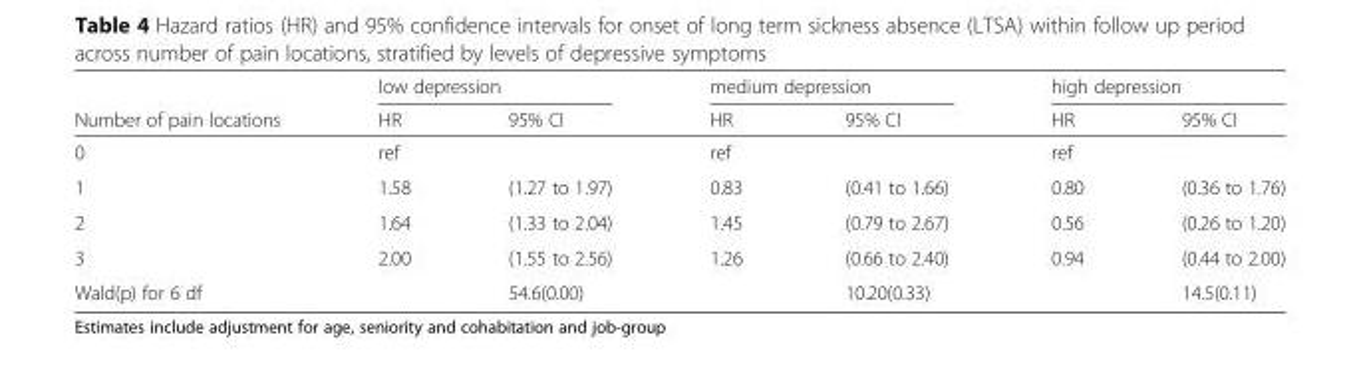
<table><thead><tr><td rowspan="2">Number of pain locations</td><td colspan="2">low depression</td><td colspan="2">medium depression</td><td colspan="2">high depression</td></tr><tr><td>HR</td><td>95% CI</td><td>HR</td><td>95% CI</td><td>HR</td><td>95% CI</td></tr></thead><tbody><tr><td>0</td><td>ref</td><td></td><td>ref</td><td></td><td>ref</td><td></td></tr><tr><td>1</td><td>1.58</td><td>(1.27 to 1.97)</td><td>0.83</td><td>(0.41 to 1.66)</td><td>0.80</td><td>(0.36 to 1.76)</td></tr><tr><td>2</td><td>1.64</td><td>(1.33 to 2.04)</td><td>1.45</td><td>(0.79 to 2.67)</td><td>0.56</td><td>(0.26 to 1.20)</td></tr><tr><td>3</td><td>2.00</td><td>(1.55 to 2.56)</td><td>1.26</td><td>(0.66 to 2.40)</td><td>0.94</td><td>(0.44 to 2.00)</td></tr><tr><td>Wald(p) for 6 df</td><td></td><td>54.6(0.00)</td><td></td><td>10.20(0.33)</td><td></td><td>14.5(0.11)</td></tr></tbody></table>